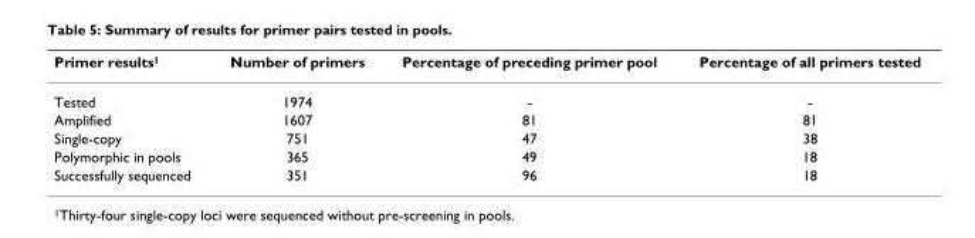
<table><thead><tr><td>Primer results<sup>1</sup></td><td>Number of primers</td><td>Percentage of preceding primer pool</td><td>Percentage of all primers tested</td></tr></thead><tbody><tr><td>Tested</td><td>1974</td><td>-</td><td>-</td></tr><tr><td>Amplified</td><td>1607</td><td>81</td><td>81</td></tr><tr><td>Single-copy</td><td>751</td><td>47</td><td>38</td></tr><tr><td>Polymorphic in pools</td><td>365</td><td>49</td><td>18</td></tr><tr><td>Successfully sequenced</td><td>351</td><td>96</td><td>18</td></tr></tbody></table>